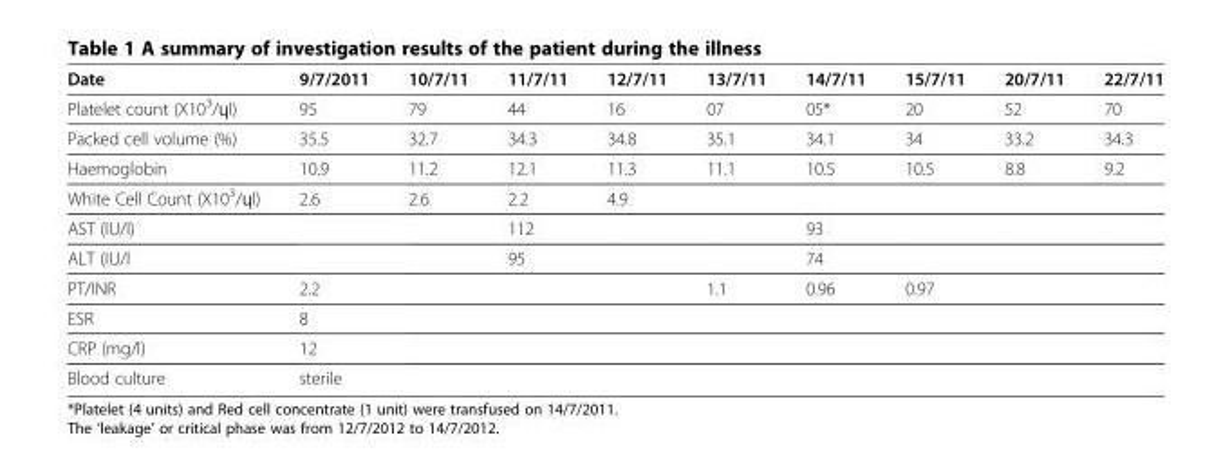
<table><thead><tr><td>Date</td><td>9/7/2011</td><td>10/7/11</td><td>11/7/11</td><td>12/7/11</td><td>13/7/11</td><td>14/7/11</td><td>15/7/11</td><td>20/7/11</td><td>22/7/11</td></tr></thead><tbody><tr><td>Platelet count (X10<sup>3</sup>/ɥl)</td><td>95</td><td>79</td><td>44</td><td>16</td><td>07</td><td>05*</td><td>20</td><td>52</td><td>70</td></tr><tr><td>Packed cell volume (%)</td><td>35.5</td><td>32.7</td><td>34.3</td><td>34.8</td><td>35.1</td><td>34.1</td><td>34</td><td>33.2</td><td>34.3</td></tr><tr><td>Haemoglobin</td><td>10.9</td><td>11.2</td><td>12.1</td><td>11.3</td><td>11.1</td><td>10.5</td><td>10.5</td><td>8.8</td><td>9.2</td></tr><tr><td>White Cell Count (X10<sup>3</sup>/ɥl)</td><td>2.6</td><td>2.6</td><td>2.2</td><td>4.9</td><td></td><td></td><td></td><td></td><td></td></tr><tr><td>AST (IU/l)</td><td></td><td></td><td>112</td><td></td><td></td><td>93</td><td></td><td></td><td></td></tr><tr><td>ALT (IU/l</td><td></td><td></td><td>95</td><td></td><td></td><td>74</td><td></td><td></td><td></td></tr><tr><td>PT/INR</td><td>2.2</td><td></td><td></td><td></td><td>1.1</td><td>0.96</td><td>0.97</td><td></td><td></td></tr><tr><td>ESR</td><td>8</td><td></td><td></td><td></td><td></td><td></td><td></td><td></td><td></td></tr><tr><td>CRP (mg/l)</td><td>12</td><td></td><td></td><td></td><td></td><td></td><td></td><td></td><td></td></tr><tr><td>Blood culture</td><td>sterile</td><td></td><td></td><td></td><td></td><td></td><td></td><td></td><td></td></tr></tbody></table>